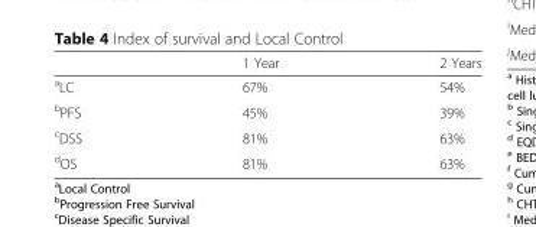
<table><thead><tr><td></td><td>1 Year</td><td>2 Years</td></tr></thead><tbody><tr><td><sup>a</sup>LC</td><td>67%</td><td>54%</td></tr><tr><td><sup>b</sup>PFS</td><td>45%</td><td>39%</td></tr><tr><td><sup>c</sup>DSS</td><td>81%</td><td>63%</td></tr><tr><td><sup>d</sup>OS</td><td>81%</td><td>63%</td></tr></tbody></table>